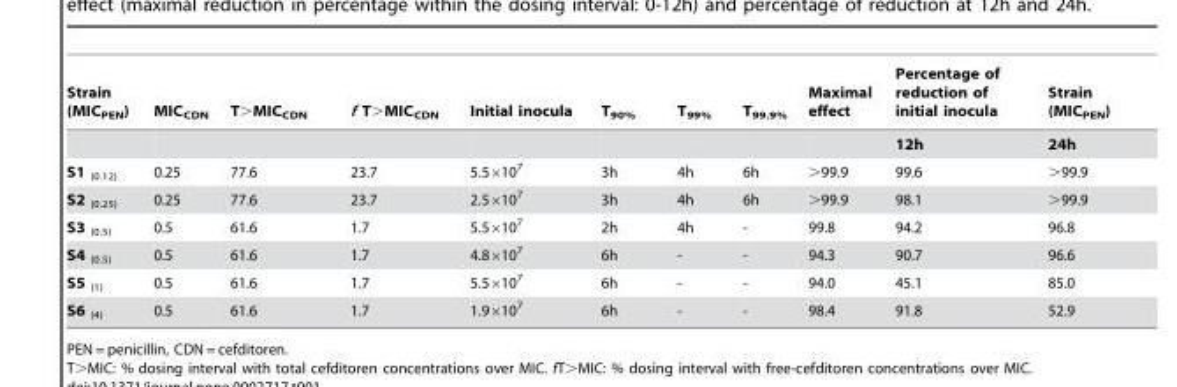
<table><thead><tr><td>Strain (MIC<sub>PEN</sub>)</td><td>MIC<sub>CDN</sub></td><td>T&gt;MIC<sub>CDN</sub></td><td>f T&gt;MIC<sub>CDN</sub></td><td>Initial inocula</td><td>T<sub>90%</sub></td><td>T<sub>99%</sub></td><td>T<sub>99.9%</sub></td><td>Maximal effect</td><td>Percentage of reduction of initial inocula</td><td>Strain (MIC<sub>PEN</sub>)</td></tr></thead><tbody><tr><td></td><td></td><td></td><td></td><td></td><td></td><td></td><td></td><td></td><td>12h</td><td>24h</td></tr><tr><td>S1 <sub>(0.12)</sub></td><td>0.25</td><td>77.6</td><td>23.7</td><td>5.5×10<sup>7</sup></td><td>3h</td><td>4h</td><td>6h</td><td>&gt;99.9</td><td>99.6</td><td>&gt;99.9</td></tr><tr><td>S2 <sub>(0.25)</sub></td><td>0.25</td><td>77.6</td><td>23.7</td><td>2.5×10<sup>7</sup></td><td>3h</td><td>4h</td><td>6h</td><td>&gt;99.9</td><td>98.1</td><td>&gt;99.9</td></tr><tr><td>S3 <sub>(0.5)</sub></td><td>0.5</td><td>61.6</td><td>1.7</td><td>5.5×10<sup>7</sup></td><td>2h</td><td>4h</td><td>-</td><td>99.8</td><td>94.2</td><td>96.8</td></tr><tr><td>S4 <sub>(0.5)</sub></td><td>0.5</td><td>61.6</td><td>1.7</td><td>4.8×10<sup>7</sup></td><td>6h</td><td>-</td><td>-</td><td>94.3</td><td>90.7</td><td>96.6</td></tr><tr><td>S5 <sub>(1)</sub></td><td>0.5</td><td>61.6</td><td>1.7</td><td>5.5×10<sup>7</sup></td><td>6h</td><td>-</td><td>-</td><td>94.0</td><td>45.1</td><td>85.0</td></tr><tr><td>S6 <sub>(4)</sub></td><td>0.5</td><td>61.6</td><td>1.7</td><td>1.9×10<sup>7</sup></td><td>6h</td><td>-</td><td>-</td><td>98.4</td><td>91.8</td><td>52.9</td></tr></tbody></table>